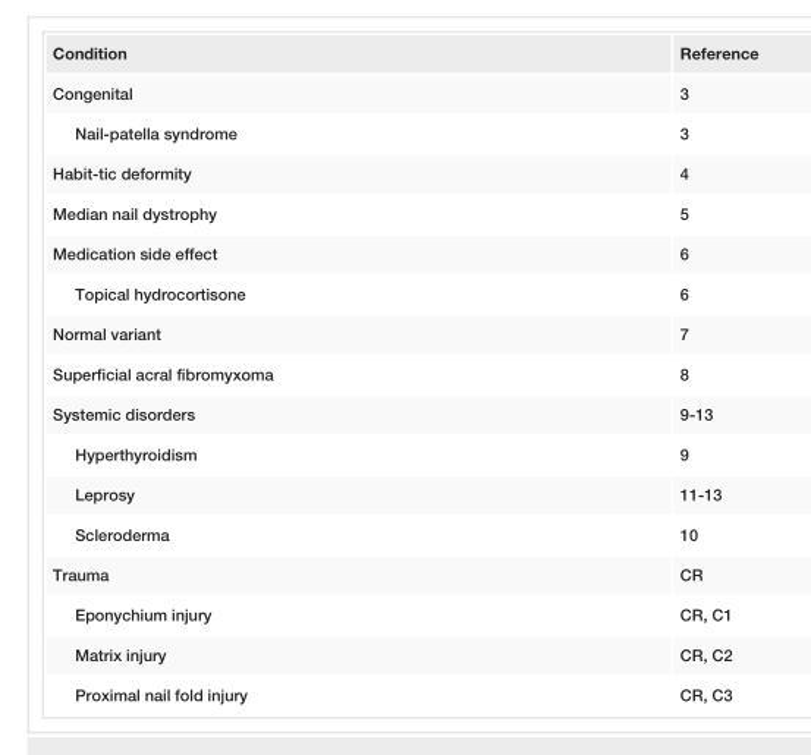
<table><tbody><tr><td>Condition</td><td>Reference</td></tr><tr><td>Congenital</td><td>3</td></tr><tr><td>Nail-patella syndrome</td><td>3</td></tr><tr><td>Habit-tic deformity</td><td>4</td></tr><tr><td>Median nail dystrophy</td><td>5</td></tr><tr><td>Medication side effect</td><td>6</td></tr><tr><td>Topical hydrocortisone</td><td>6</td></tr><tr><td>Normal variant</td><td>7</td></tr><tr><td>Superficial acral fibromyxoma</td><td>8</td></tr><tr><td>Systemic disorders</td><td>9-13</td></tr><tr><td>Hyperthyroidism</td><td>9</td></tr><tr><td>Leprosy</td><td>11-13</td></tr><tr><td>Scleroderma</td><td>10</td></tr><tr><td>Trauma</td><td>CR</td></tr><tr><td>Eponychium injury</td><td>CR, C1</td></tr><tr><td>Matrix injury</td><td>CR, C2</td></tr><tr><td>Proximal nail fold injury</td><td>CR, C3</td></tr></tbody></table>